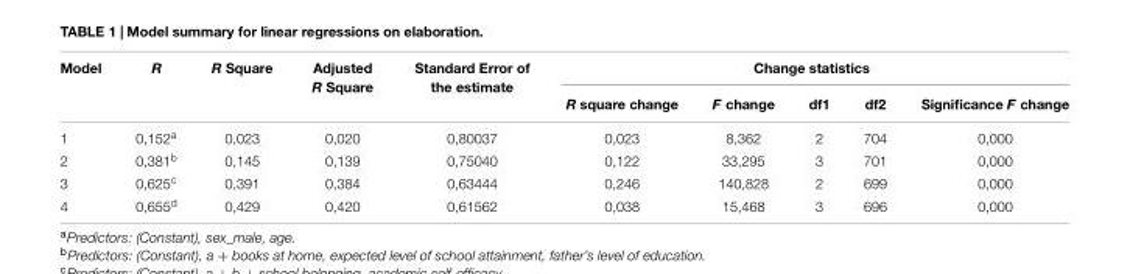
<table><thead><tr><td rowspan="2">Model</td><td rowspan="2">R</td><td rowspan="2">R Square</td><td rowspan="2">Adjusted R Square</td><td rowspan="2">Standard Error of the estimate</td><td colspan="5">Change statistics</td></tr><tr><td>R square change</td><td>F change</td><td>df1</td><td>df2</td><td>Significance F change</td></tr></thead><tbody><tr><td>1</td><td>0,152<sup>a</sup></td><td>0,023</td><td>0,020</td><td>0,80037</td><td>0,023</td><td>8,362</td><td>2</td><td>704</td><td>0,000</td></tr><tr><td>2</td><td>0,381<sup>b</sup></td><td>0,145</td><td>0,139</td><td>0,75040</td><td>0,122</td><td>33,295</td><td>3</td><td>701</td><td>0,000</td></tr><tr><td>3</td><td>0,625<sup>c</sup></td><td>0,391</td><td>0,384</td><td>0,63444</td><td>0,246</td><td>140,828</td><td>2</td><td>699</td><td>0,000</td></tr><tr><td>4</td><td>0,655<sup>d</sup></td><td>0,429</td><td>0,420</td><td>0,61562</td><td>0,038</td><td>15,468</td><td>3</td><td>696</td><td>0,000</td></tr></tbody></table>